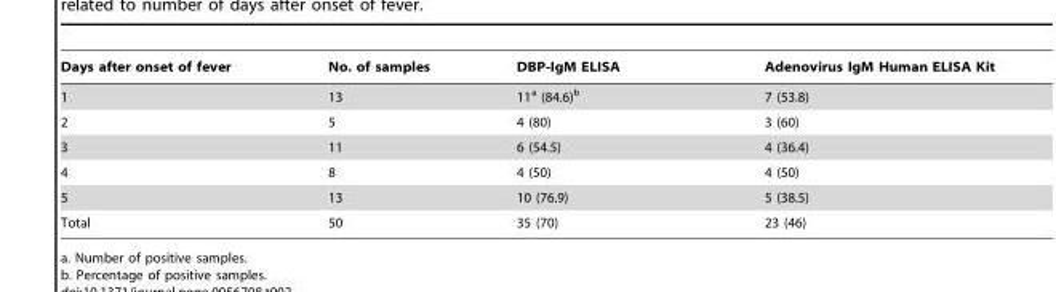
<table><thead><tr><td>Days after onset of fever</td><td>No. of samples</td><td>DBP-IgM ELISA</td><td>Adenovirus IgM Human ELISA Kit</td></tr></thead><tbody><tr><td>1</td><td>13</td><td>11<sup>a</sup> (84.6)<sup>b</sup></td><td>7 (53.8)</td></tr><tr><td>2</td><td>5</td><td>4 (80)</td><td>3 (60)</td></tr><tr><td>3</td><td>11</td><td>6 (54.5)</td><td>4 (36.4)</td></tr><tr><td>4</td><td>8</td><td>4 (50)</td><td>4 (50)</td></tr><tr><td>5</td><td>13</td><td>10 (76.9)</td><td>5 (38.5)</td></tr><tr><td>Total</td><td>50</td><td>35 (70)</td><td>23 (46)</td></tr></tbody></table>